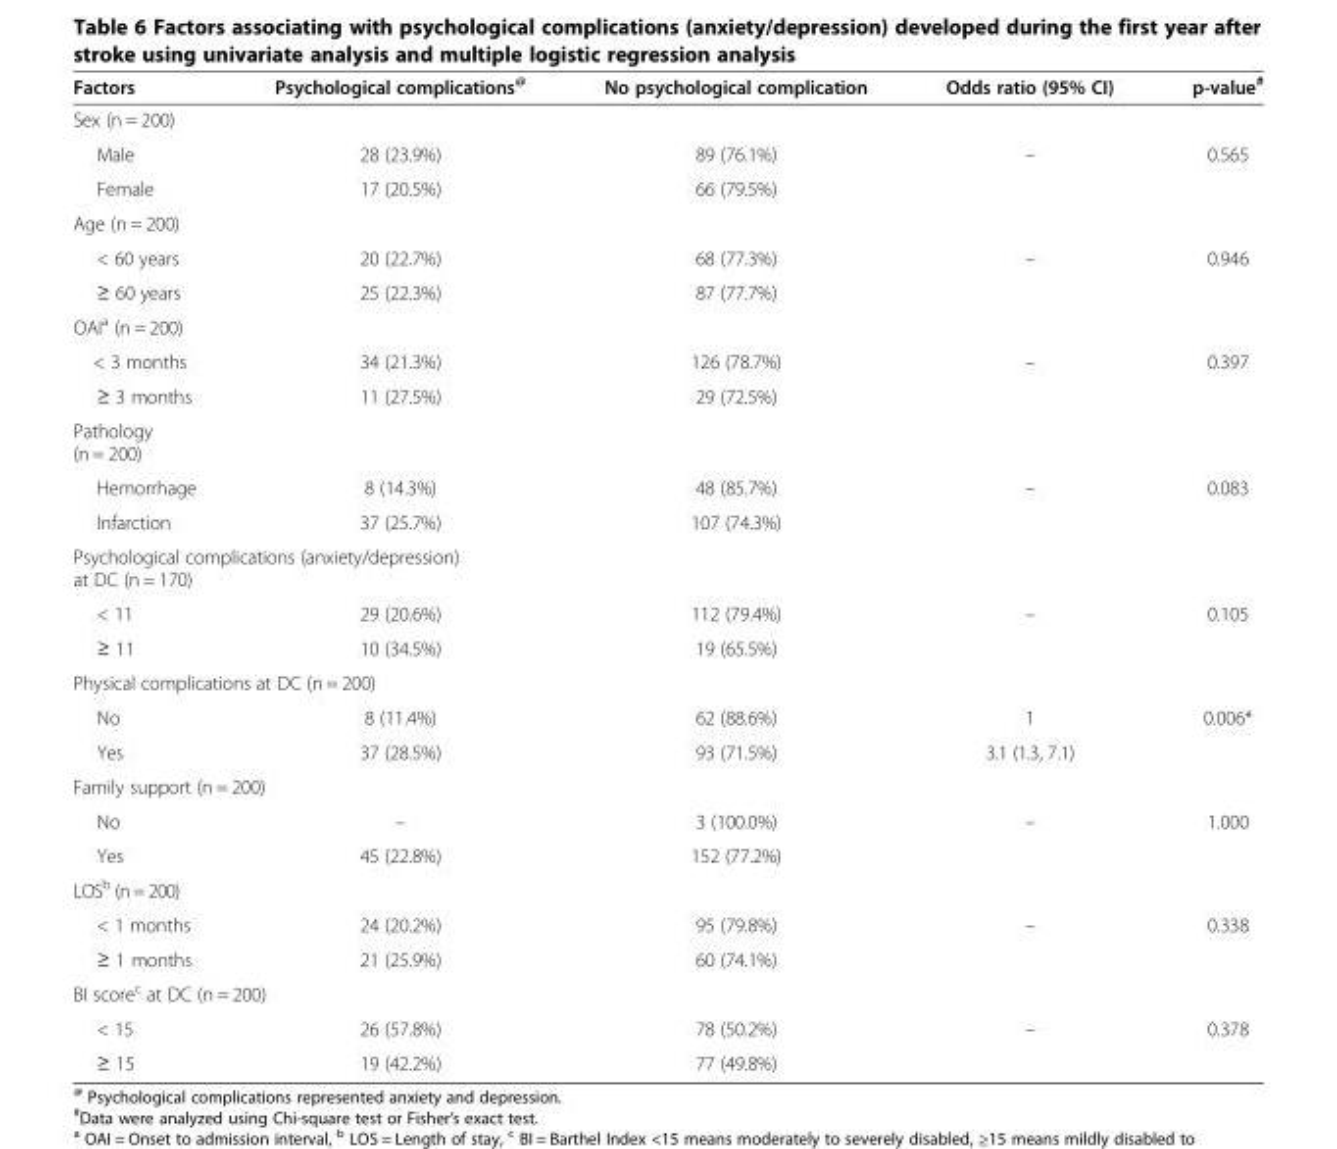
<table><thead><tr><td>Factors</td><td>Psychological complications<sup>@</sup></td><td>No psychological complication</td><td>Odds ratio (95% CI)</td><td>p-value<sup>#</sup></td></tr></thead><tbody><tr><td colspan="5">Sex (n = 200)</td></tr><tr><td>Male</td><td>28 (23.9%)</td><td>89 (76.1%)</td><td>–</td><td>0.565</td></tr><tr><td>Female</td><td>17 (20.5%)</td><td>66 (79.5%)</td><td></td><td></td></tr><tr><td colspan="5">Age (n = 200)</td></tr><tr><td>&lt; 60 years</td><td>20 (22.7%)</td><td>68 (77.3%)</td><td>–</td><td>0.946</td></tr><tr><td>≥ 60 years</td><td>25 (22.3%)</td><td>87 (77.7%)</td><td></td><td></td></tr><tr><td colspan="5">OAI<sup>a</sup> (n = 200)</td></tr><tr><td>&lt; 3 months</td><td>34 (21.3%)</td><td>126 (78.7%)</td><td>–</td><td>0.397</td></tr><tr><td>≥ 3 months</td><td>11 (27.5%)</td><td>29 (72.5%)</td><td></td><td></td></tr><tr><td colspan="5">Pathology (n = 200)</td></tr><tr><td>Hemorrhage</td><td>8 (14.3%)</td><td>48 (85.7%)</td><td>–</td><td>0.083</td></tr><tr><td>Infarction</td><td>37 (25.7%)</td><td>107 (74.3%)</td><td></td><td></td></tr><tr><td colspan="5">Psychological complications (anxiety/depression) at DC (n = 170)</td></tr><tr><td>&lt; 11</td><td>29 (20.6%)</td><td>112 (79.4%)</td><td>–</td><td>0.105</td></tr><tr><td>≥ 11</td><td>10 (34.5%)</td><td>19 (65.5%)</td><td></td><td></td></tr><tr><td colspan="5">Physical complications at DC (n = 200)</td></tr><tr><td>No</td><td>8 (11.4%)</td><td>62 (88.6%)</td><td>1</td><td>0.006*</td></tr><tr><td>Yes</td><td>37 (28.5%)</td><td>93 (71.5%)</td><td>3.1 (1.3, 7.1)</td><td></td></tr><tr><td colspan="5">Family support (n = 200)</td></tr><tr><td>No</td><td>–</td><td>3 (100.0%)</td><td>–</td><td>1.000</td></tr><tr><td>Yes</td><td>45 (22.8%)</td><td>152 (77.2%)</td><td></td><td></td></tr><tr><td colspan="5">LOS<sup>b</sup> (n = 200)</td></tr><tr><td>&lt; 1 months</td><td>24 (20.2%)</td><td>95 (79.8%)</td><td>–</td><td>0.338</td></tr><tr><td>≥ 1 months</td><td>21 (25.9%)</td><td>60 (74.1%)</td><td></td><td></td></tr><tr><td colspan="5">BI score<sup>c</sup> at DC (n = 200)</td></tr><tr><td>&lt; 15</td><td>26 (57.8%)</td><td>78 (50.2%)</td><td>–</td><td>0.378</td></tr><tr><td>≥ 15</td><td>19 (42.2%)</td><td>77 (49.8%)</td><td></td><td></td></tr></tbody></table>